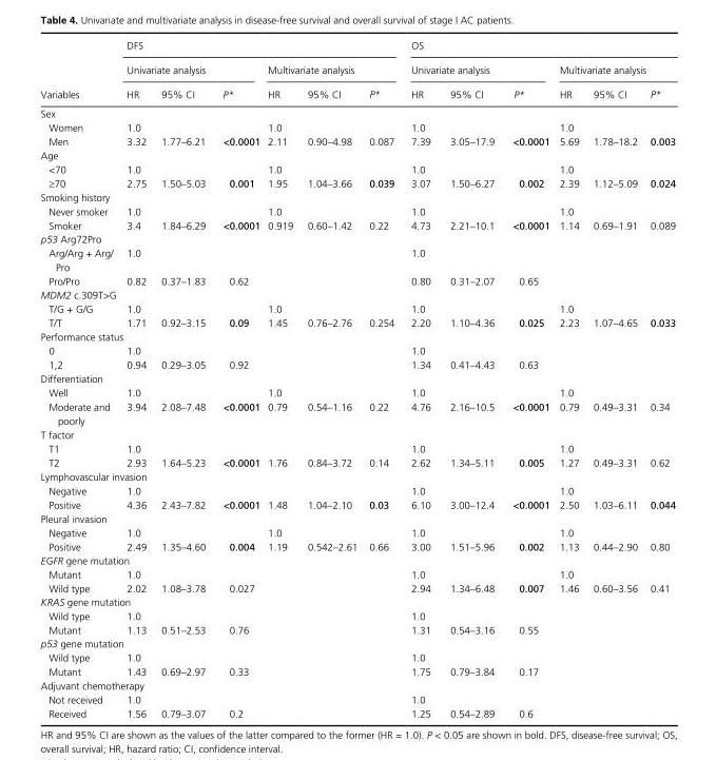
<table><thead><tr><td rowspan="3">Variables</td><td colspan="6">DFS</td><td colspan="6">OS</td></tr><tr><td colspan="3">Univariate analysis</td><td colspan="3">Multivariate analysis</td><td colspan="3">Univariate analysis</td><td colspan="3">Multivariate analysis</td></tr><tr><td>HR</td><td>95% CI</td><td>P*</td><td>HR</td><td>95% CI</td><td>P*</td><td>HR</td><td>95% CI</td><td>P*</td><td>HR</td><td>95% CI</td><td>P*</td></tr></thead><tbody><tr><td colspan="13">Sex</td></tr><tr><td>Women</td><td>1.0</td><td></td><td></td><td>1.0</td><td></td><td></td><td>1.0</td><td></td><td></td><td>1.0</td><td></td><td></td></tr><tr><td>Men</td><td>3.32</td><td>1.77–6.21</td><td>&lt;0.0001</td><td>2.11</td><td>0.90–4.98</td><td>0.087</td><td>7.39</td><td>3.05–17.9</td><td>&lt;0.0001</td><td>5.69</td><td>1.78–18.2</td><td>0.003</td></tr><tr><td colspan="13">Age</td></tr><tr><td>&lt;70</td><td>1.0</td><td></td><td></td><td>1.0</td><td></td><td></td><td>1.0</td><td></td><td></td><td>1.0</td><td></td><td></td></tr><tr><td>≥70</td><td>2.75</td><td>1.50–5.03</td><td>0.001</td><td>1.95</td><td>1.04–3.66</td><td>0.039</td><td>3.07</td><td>1.50–6.27</td><td>0.002</td><td>2.39</td><td>1.12–5.09</td><td>0.024</td></tr><tr><td colspan="13">Smoking history</td></tr><tr><td>Never smoker</td><td>1.0</td><td></td><td></td><td>1.0</td><td></td><td></td><td>1.0</td><td></td><td></td><td>1.0</td><td></td><td></td></tr><tr><td>Smoker</td><td>3.4</td><td>1.84–6.29</td><td>&lt;0.0001</td><td>0.919</td><td>0.60–1.42</td><td>0.22</td><td>4.73</td><td>2.21–10.1</td><td>&lt;0.0001</td><td>1.14</td><td>0.69–1.91</td><td>0.089</td></tr><tr><td colspan="13">p53 Arg72Pro</td></tr><tr><td>A rg/Arg + Arg/ Pro</td><td>1.0</td><td></td><td></td><td></td><td></td><td></td><td>1.0</td><td></td><td></td><td></td><td></td><td></td></tr><tr><td>Pro/Pro</td><td>0.82</td><td>0.37–1.83</td><td>0.62</td><td></td><td></td><td></td><td>0.80</td><td>0.31–2.07</td><td>0.65</td><td></td><td></td><td></td></tr><tr><td colspan="13">MDM2 c.309T&gt;G</td></tr><tr><td>T/G + G/G</td><td>1.0</td><td></td><td></td><td>1.0</td><td></td><td></td><td>1.0</td><td></td><td></td><td>1.0</td><td></td><td></td></tr><tr><td>T/T</td><td>1.71</td><td>0.92–3.15</td><td>0.09</td><td>1.45</td><td>0.76–2.76</td><td>0.254</td><td>2.20</td><td>1.10–4.36</td><td>0.025</td><td>2.23</td><td>1.07–4.65</td><td>0.033</td></tr><tr><td colspan="13">Performance status</td></tr><tr><td>0</td><td>1.0</td><td></td><td></td><td></td><td></td><td></td><td>1.0</td><td></td><td></td><td></td><td></td><td></td></tr><tr><td>1,2</td><td>0.94</td><td>0.29–3.05</td><td>0.92</td><td></td><td></td><td></td><td>1.34</td><td>0.41–4.43</td><td>0.63</td><td></td><td></td><td></td></tr><tr><td colspan="13">Differentiation</td></tr><tr><td>Well</td><td>1.0</td><td></td><td></td><td>1.0</td><td></td><td></td><td>1.0</td><td></td><td></td><td>1.0</td><td></td><td></td></tr><tr><td>M oderate and poorly</td><td>3.94</td><td>2.08–7.48</td><td>&lt;0.0001</td><td>0.79</td><td>0.54–1.16</td><td>0.22</td><td>4.76</td><td>2.16–10.5</td><td>&lt;0.0001</td><td>0.79</td><td>0.49–3.31</td><td>0.34</td></tr><tr><td colspan="13">T factor</td></tr><tr><td>T1</td><td>1.0</td><td></td><td></td><td></td><td></td><td></td><td>1.0</td><td></td><td></td><td>1.0</td><td></td><td></td></tr><tr><td>T2</td><td>2.93</td><td>1.64–5.23</td><td>&lt;0.0001</td><td>1.76</td><td>0.84–3.72</td><td>0.14</td><td>2.62</td><td>1.34–5.11</td><td>0.005</td><td>1.27</td><td>0.49–3.31</td><td>0.62</td></tr><tr><td colspan="13">Lymphovascular invasion</td></tr><tr><td>Negative</td><td>1.0</td><td></td><td></td><td></td><td></td><td></td><td>1.0</td><td></td><td></td><td>1.0</td><td></td><td></td></tr><tr><td>Positive</td><td>4.36</td><td>2.43–7.82</td><td>&lt;0.0001</td><td>1.48</td><td>1.04–2.10</td><td>0.03</td><td>6.10</td><td>3.00–12.4</td><td>&lt;0.0001</td><td>2.50</td><td>1.03–6.11</td><td>0.044</td></tr><tr><td colspan="13">Pleural invasion</td></tr><tr><td>Negative</td><td>1.0</td><td></td><td></td><td>1.0</td><td></td><td></td><td>1.0</td><td></td><td></td><td>1.0</td><td></td><td></td></tr><tr><td>Positive</td><td>2.49</td><td>1.35–4.60</td><td>0.004</td><td>1.19</td><td>0.542–2.61</td><td>0.66</td><td>3.00</td><td>1.51–5.96</td><td>0.002</td><td>1.13</td><td>0.44–2.90</td><td>0.80</td></tr><tr><td colspan="13">EGFR gene mutation</td></tr><tr><td>Mutant</td><td>1.0</td><td></td><td></td><td></td><td></td><td></td><td>1.0</td><td></td><td></td><td>1.0</td><td></td><td></td></tr><tr><td>Wild type</td><td>2.02</td><td>1.08–3.78</td><td>0.027</td><td></td><td></td><td></td><td>2.94</td><td>1.34–6.48</td><td>0.007</td><td>1.46</td><td>0.60–3.56</td><td>0.41</td></tr><tr><td colspan="13">KRAS gene mutation</td></tr><tr><td>Wild type</td><td>1.0</td><td></td><td></td><td></td><td></td><td></td><td>1.0</td><td></td><td></td><td></td><td></td><td></td></tr><tr><td>Mutant</td><td>1.13</td><td>0.51–2.53</td><td>0.76</td><td></td><td></td><td></td><td>1.31</td><td>0.54–3.16</td><td>0.55</td><td></td><td></td><td></td></tr><tr><td colspan="13">p53 gene mutation</td></tr><tr><td>Wild type</td><td>1.0</td><td></td><td></td><td></td><td></td><td></td><td>1.0</td><td></td><td></td><td></td><td></td><td></td></tr><tr><td>Mutant</td><td>1.43</td><td>0.69–2.97</td><td>0.33</td><td></td><td></td><td></td><td>1.75</td><td>0.79–3.84</td><td>0.17</td><td></td><td></td><td></td></tr><tr><td colspan="13">Adjuvant chemotherapy</td></tr><tr><td>Not received</td><td>1.0</td><td></td><td></td><td></td><td></td><td></td><td>1.0</td><td></td><td></td><td></td><td></td><td></td></tr><tr><td>Received</td><td>1.56</td><td>0.79–3.07</td><td>0.2</td><td></td><td></td><td></td><td>1.25</td><td>0.54–2.89</td><td>0.6</td><td></td><td></td><td></td></tr></tbody></table>